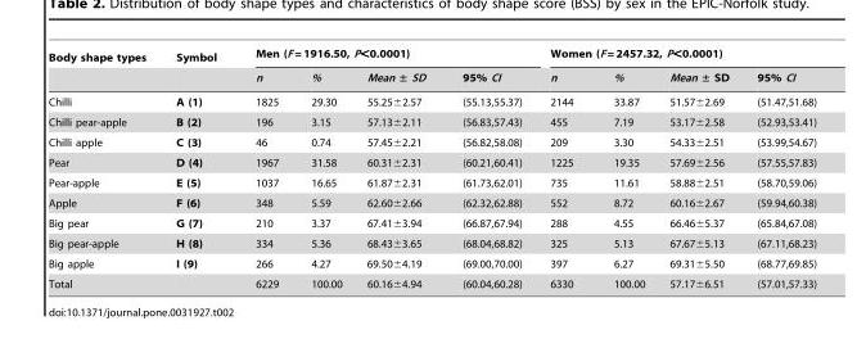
<table><thead><tr><td rowspan="2">Body shape types</td><td rowspan="2">Symbol</td><td colspan="4">Men (F = 1916.50, P&lt;0.0001)</td><td colspan="4">Women (F = 2457.32, P&lt;0.0001)</td></tr><tr><td>n</td><td>%</td><td>Mean ± SD</td><td>95% CI</td><td>n</td><td>%</td><td>Mean ± SD</td><td>95% CI</td></tr></thead><tbody><tr><td>Chilli</td><td>A (1)</td><td>1825</td><td>29.30</td><td>55.25±2.57</td><td>(55.13,55.37)</td><td>2144</td><td>33.87</td><td>51.57±2.69</td><td>(51.47,51.68)</td></tr><tr><td>Chilli pear-apple</td><td>B (2)</td><td>196</td><td>3.15</td><td>57.13±2.11</td><td>(56.83,57.43)</td><td>455</td><td>7.19</td><td>53.17±2.58</td><td>(52.93,53.41)</td></tr><tr><td>Chilli apple</td><td>C (3)</td><td>46</td><td>0.74</td><td>57.45±2.21</td><td>(56.82,58.08)</td><td>209</td><td>3.30</td><td>54.33±2.51</td><td>(53.99,54.67)</td></tr><tr><td>Pear</td><td>D (4)</td><td>1967</td><td>31.58</td><td>60.31±2.31</td><td>(60.21,60.41)</td><td>1225</td><td>19.35</td><td>57.69±2.56</td><td>(57.55,57.83)</td></tr><tr><td>Pear-apple</td><td>E (5)</td><td>1037</td><td>16.65</td><td>61.87±2.31</td><td>(61.73,62.01)</td><td>735</td><td>11.61</td><td>58.88±2.51</td><td>(58.70,59.06)</td></tr><tr><td>Apple</td><td>F (6)</td><td>348</td><td>5.59</td><td>62.60±2.66</td><td>(62.32,62.88)</td><td>552</td><td>8.72</td><td>60.16±2.67</td><td>(59.94,60.38)</td></tr><tr><td>Big pear</td><td>G (7)</td><td>210</td><td>3.37</td><td>67.41±3.94</td><td>(66.87,67.94)</td><td>288</td><td>4.55</td><td>66.46±5.37</td><td>(65.84,67.08)</td></tr><tr><td>Big pear-apple</td><td>H (8)</td><td>334</td><td>5.36</td><td>68.43±3.65</td><td>(68.04,68.82)</td><td>325</td><td>5.13</td><td>67.67±5.13</td><td>(67.11,68.23)</td></tr><tr><td>Big apple</td><td>I (9)</td><td>266</td><td>4.27</td><td>69.50±4.19</td><td>(69.00,70.00)</td><td>397</td><td>6.27</td><td>69.31±5.50</td><td>(68.77,69.85)</td></tr><tr><td>Total</td><td></td><td>6229</td><td>100.00</td><td>60.16±4.94</td><td>(60.04,60.28)</td><td>6330</td><td>100.00</td><td>57.17±6.51</td><td>(57.01,57.33)</td></tr></tbody></table>